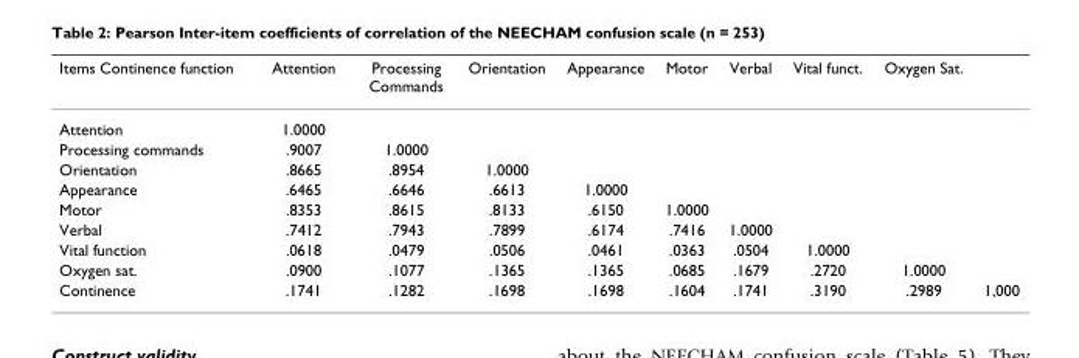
<table><thead><tr><td>Items Continence function</td><td>Attention</td><td>Processing Commands</td><td>Orientation</td><td>Appearance</td><td>Motor</td><td>Verbal</td><td>Vital funct.</td><td>Oxygen Sat.</td><td></td></tr></thead><tbody><tr><td>Attention</td><td>1.0000</td><td></td><td></td><td></td><td></td><td></td><td></td><td></td><td></td></tr><tr><td>Processing commands</td><td>.9007</td><td>1.0000</td><td></td><td></td><td></td><td></td><td></td><td></td><td></td></tr><tr><td>Orientation</td><td>.8665</td><td>.8954</td><td>1.0000</td><td></td><td></td><td></td><td></td><td></td><td></td></tr><tr><td>Appearance</td><td>.6465</td><td>.6646</td><td>.6613</td><td>1.0000</td><td></td><td></td><td></td><td></td><td></td></tr><tr><td>Motor</td><td>.8353</td><td>.8615</td><td>.8133</td><td>.6150</td><td>1.0000</td><td></td><td></td><td></td><td></td></tr><tr><td>Verbal</td><td>.7412</td><td>.7943</td><td>.7899</td><td>.6174</td><td>.7416</td><td>1.0000</td><td></td><td></td><td></td></tr><tr><td>Vital function</td><td>.0618</td><td>.0479</td><td>.0506</td><td>.0461</td><td>.0363</td><td>.0504</td><td>1.0000</td><td></td><td></td></tr><tr><td>Oxygen sat.</td><td>.0900</td><td>.1077</td><td>.1365</td><td>.1365</td><td>.0685</td><td>.1679</td><td>.2720</td><td>1.0000</td><td></td></tr><tr><td>Continence</td><td>.1741</td><td>.1282</td><td>.1698</td><td>.1698</td><td>.1604</td><td>.1741</td><td>.3190</td><td>.2989</td><td>1,000</td></tr></tbody></table>